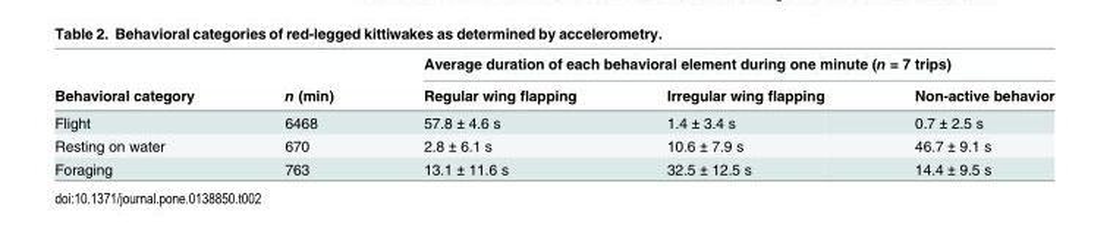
<table><thead><tr><td rowspan="2">Behavioral category</td><td rowspan="2">n (min)</td><td colspan="3">Average duration of each behavioral element during one minute (n = 7 trips)</td></tr><tr><td>Regular wing flapping</td><td>Irregular wing flapping</td><td>Non-active behavior</td></tr></thead><tbody><tr><td>Flight</td><td>6468</td><td>57.8 ± 4.6 s</td><td>1.4 ± 3.4 s</td><td>0.7 ± 2.5 s</td></tr><tr><td>Resting on water</td><td>670</td><td>2.8 ± 6.1 s</td><td>10.6 ± 7.9 s</td><td>46.7 ± 9.1 s</td></tr><tr><td>Foraging</td><td>763</td><td>13.1 ± 11.6 s</td><td>32.5 ± 12.5 s</td><td>14.4 ± 9.5 s</td></tr></tbody></table>